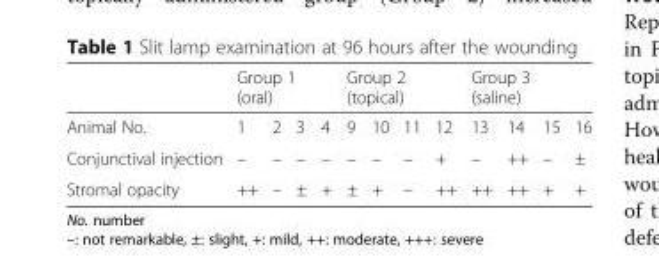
<table><thead><tr><td rowspan="2">Animal No.</td><td colspan="4">Group 1 (oral)</td><td colspan="4">Group 2 (topical)</td><td colspan="4">Group 3 (saline)</td></tr><tr><td>1</td><td>2</td><td>3</td><td>4</td><td>9</td><td>10</td><td>11</td><td>12</td><td>13</td><td>14</td><td>15</td><td>16</td></tr></thead><tbody><tr><td>Conjunctival injection</td><td>–</td><td>–</td><td>–</td><td>–</td><td>–</td><td>–</td><td>–</td><td>+</td><td>–</td><td>++</td><td>–</td><td>±</td></tr><tr><td>Stromal opacity</td><td>++</td><td>–</td><td>±</td><td>+</td><td>±</td><td>+</td><td>–</td><td>++</td><td>++</td><td>++</td><td>+</td><td>+</td></tr></tbody></table>